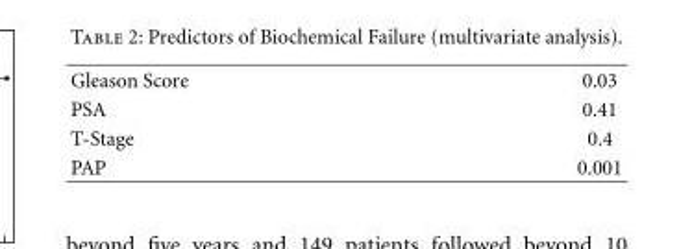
<table><tbody><tr><td>Gleason Score</td><td>0.03</td></tr><tr><td>PSA</td><td>0.41</td></tr><tr><td>T-Stage</td><td>0.4</td></tr><tr><td>PAP</td><td>0.001</td></tr></tbody></table>